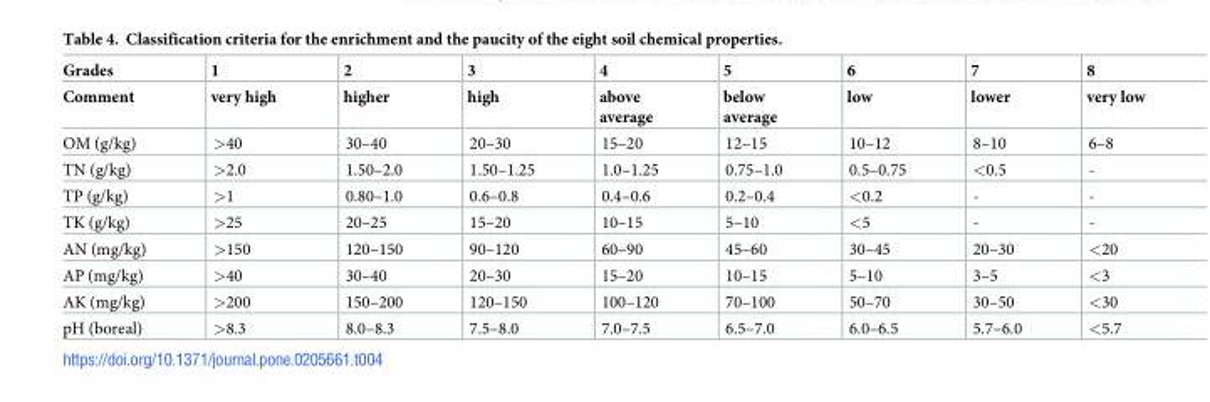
<table><thead><tr><td rowspan="2">Grades Comment</td><td rowspan="2">1 very high</td><td rowspan="2">2 higher</td><td rowspan="2">3 high</td><td rowspan="2">4 above average</td><td rowspan="2">5 below average</td><td rowspan="2">6 low</td><td rowspan="2">7 lower</td><td rowspan="2">8 very low</td></tr><tr></tr></thead><tbody><tr><td>OM (g/kg)</td><td>&gt;40</td><td>30–40</td><td>20–30</td><td>15–20</td><td>12–15</td><td>10–12</td><td>8–10</td><td>6–8</td></tr><tr><td>TN (g/kg)</td><td>&gt;2.0</td><td>1.50–2.0</td><td>1.50–1.25</td><td>1.0–1.25</td><td>0.75–1.0</td><td>0.5–0.75</td><td>&lt;0.5</td><td>-</td></tr><tr><td>TP (g/kg)</td><td>&gt;1</td><td>0.80–1.0</td><td>0.6–0.8</td><td>0.4–0.6</td><td>0.2–0.4</td><td>&lt;0.2</td><td>-</td><td>-</td></tr><tr><td>TK (g/kg)</td><td>&gt;25</td><td>20–25</td><td>15–20</td><td>10–15</td><td>5–10</td><td>&lt;5</td><td>-</td><td>-</td></tr><tr><td>AN (mg/kg)</td><td>&gt;150</td><td>120–150</td><td>90–120</td><td>60–90</td><td>45–60</td><td>30–45</td><td>20–30</td><td>&lt;20</td></tr><tr><td>AP (mg/kg)</td><td>&gt;40</td><td>30–40</td><td>20–30</td><td>15–20</td><td>10–15</td><td>5–10</td><td>3–5</td><td>&lt;3</td></tr><tr><td>AK (mg/kg)</td><td>&gt;200</td><td>150–200</td><td>120–150</td><td>100–120</td><td>70–100</td><td>50–70</td><td>30–50</td><td>&lt;30</td></tr><tr><td>pH (boreal)</td><td>&gt;8.3</td><td>8.0–8.3</td><td>7.5–8.0</td><td>7.0–7.5</td><td>6.5–7.0</td><td>6.0–6.5</td><td>5.7–6.0</td><td>&lt;5.7</td></tr></tbody></table>